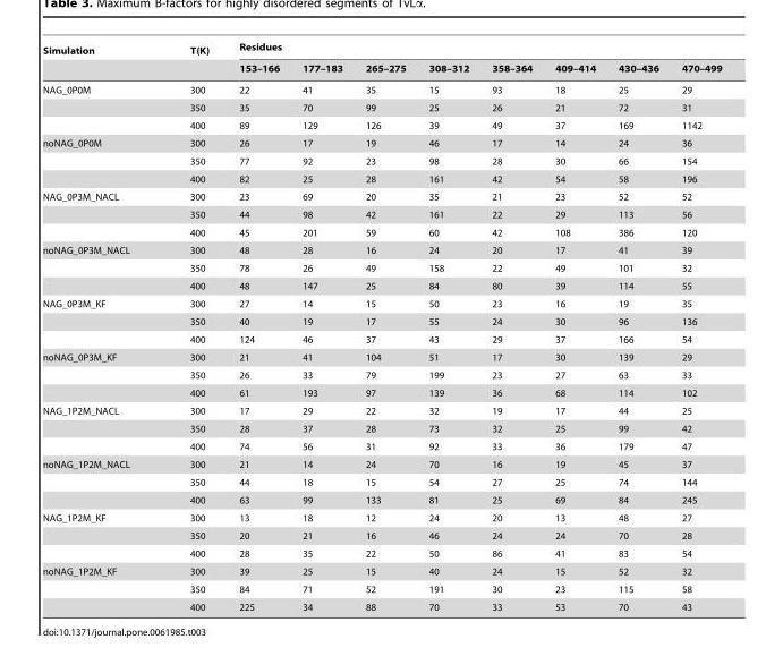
<table><thead><tr><td rowspan="2">Simulation</td><td rowspan="2">T(K)</td><td colspan="8">Residues</td></tr><tr><td>153–166</td><td>177–183</td><td>265–275</td><td>308–312</td><td>358–364</td><td>409–414</td><td>430–436</td><td>470–499</td></tr></thead><tbody><tr><td rowspan="3">NAG_0P0M</td><td>300</td><td>22</td><td>41</td><td>35</td><td>15</td><td>93</td><td>18</td><td>25</td><td>29</td></tr><tr><td>350</td><td>35</td><td>70</td><td>99</td><td>25</td><td>26</td><td>21</td><td>72</td><td>31</td></tr><tr><td>400</td><td>89</td><td>129</td><td>126</td><td>39</td><td>49</td><td>37</td><td>169</td><td>1142</td></tr><tr><td rowspan="3">noNAG_0P0M</td><td>300</td><td>26</td><td>17</td><td>19</td><td>46</td><td>17</td><td>14</td><td>24</td><td>36</td></tr><tr><td>350</td><td>77</td><td>92</td><td>23</td><td>98</td><td>28</td><td>30</td><td>66</td><td>154</td></tr><tr><td>400</td><td>82</td><td>25</td><td>28</td><td>161</td><td>42</td><td>54</td><td>58</td><td>196</td></tr><tr><td rowspan="3">NAG_0P3M_NACL</td><td>300</td><td>23</td><td>69</td><td>20</td><td>35</td><td>21</td><td>23</td><td>52</td><td>52</td></tr><tr><td>350</td><td>44</td><td>98</td><td>42</td><td>161</td><td>22</td><td>29</td><td>113</td><td>56</td></tr><tr><td>400</td><td>45</td><td>201</td><td>59</td><td>60</td><td>42</td><td>108</td><td>386</td><td>120</td></tr><tr><td rowspan="3">noNAG_0P3M_NACL</td><td>300</td><td>48</td><td>28</td><td>16</td><td>24</td><td>20</td><td>17</td><td>41</td><td>39</td></tr><tr><td>350</td><td>78</td><td>26</td><td>49</td><td>158</td><td>22</td><td>49</td><td>101</td><td>32</td></tr><tr><td>400</td><td>48</td><td>147</td><td>25</td><td>84</td><td>80</td><td>39</td><td>114</td><td>55</td></tr><tr><td rowspan="3">NAG_0P3M_KF</td><td>300</td><td>27</td><td>14</td><td>15</td><td>50</td><td>23</td><td>16</td><td>19</td><td>35</td></tr><tr><td>350</td><td>40</td><td>19</td><td>17</td><td>55</td><td>24</td><td>30</td><td>96</td><td>136</td></tr><tr><td>400</td><td>124</td><td>46</td><td>37</td><td>43</td><td>29</td><td>37</td><td>166</td><td>54</td></tr><tr><td rowspan="3">noNAG_0P3M_KF</td><td>300</td><td>21</td><td>41</td><td>104</td><td>51</td><td>17</td><td>30</td><td>139</td><td>29</td></tr><tr><td>350</td><td>26</td><td>33</td><td>79</td><td>199</td><td>23</td><td>27</td><td>63</td><td>33</td></tr><tr><td>400</td><td>61</td><td>193</td><td>97</td><td>139</td><td>36</td><td>68</td><td>114</td><td>102</td></tr><tr><td rowspan="3">NAG_1P2M_NACL</td><td>300</td><td>17</td><td>29</td><td>22</td><td>32</td><td>19</td><td>17</td><td>44</td><td>25</td></tr><tr><td>350</td><td>28</td><td>37</td><td>28</td><td>73</td><td>32</td><td>25</td><td>99</td><td>42</td></tr><tr><td>400</td><td>74</td><td>56</td><td>31</td><td>92</td><td>33</td><td>36</td><td>179</td><td>47</td></tr><tr><td rowspan="3">noNAG_1P2M_NACL</td><td>300</td><td>21</td><td>14</td><td>24</td><td>70</td><td>16</td><td>19</td><td>45</td><td>37</td></tr><tr><td>350</td><td>44</td><td>18</td><td>15</td><td>54</td><td>27</td><td>25</td><td>74</td><td>144</td></tr><tr><td>400</td><td>63</td><td>99</td><td>133</td><td>81</td><td>25</td><td>69</td><td>84</td><td>245</td></tr><tr><td rowspan="3">NAG_1P2M_KF</td><td>300</td><td>13</td><td>18</td><td>12</td><td>24</td><td>20</td><td>13</td><td>48</td><td>27</td></tr><tr><td>350</td><td>20</td><td>21</td><td>16</td><td>46</td><td>24</td><td>24</td><td>70</td><td>28</td></tr><tr><td>400</td><td>28</td><td>35</td><td>22</td><td>50</td><td>86</td><td>41</td><td>83</td><td>54</td></tr><tr><td rowspan="3">noNAG_1P2M_KF</td><td>300</td><td>39</td><td>25</td><td>15</td><td>40</td><td>24</td><td>15</td><td>52</td><td>32</td></tr><tr><td>350</td><td>84</td><td>71</td><td>52</td><td>191</td><td>30</td><td>23</td><td>115</td><td>58</td></tr><tr><td>400</td><td>225</td><td>34</td><td>88</td><td>70</td><td>33</td><td>53</td><td>70</td><td>43</td></tr></tbody></table>